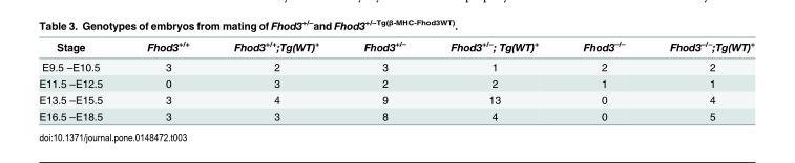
<table><thead><tr><td>Stage</td><td>Fhod3<sup>+/+</sup></td><td>Fhod3<sup>+/+</sup>;Tg(WT)<sup>+</sup></td><td>Fhod3<sup>+/–</sup></td><td>Fhod3<sup>+/−</sup>; Tg(WT)<sup>+</sup></td><td>Fhod3<sup>–/–</sup></td><td>Fhod3<sup>−/−</sup>;Tg(WT)<sup>+</sup></td></tr></thead><tbody><tr><td>E9.5 –E10.5</td><td>3</td><td>2</td><td>3</td><td>1</td><td>2</td><td>2</td></tr><tr><td>E11.5 –E12.5</td><td>0</td><td>3</td><td>2</td><td>2</td><td>1</td><td>1</td></tr><tr><td>E13.5 –E15.5</td><td>3</td><td>4</td><td>9</td><td>13</td><td>0</td><td>4</td></tr><tr><td>E16.5 –E18.5</td><td>3</td><td>3</td><td>8</td><td>4</td><td>0</td><td>5</td></tr></tbody></table>